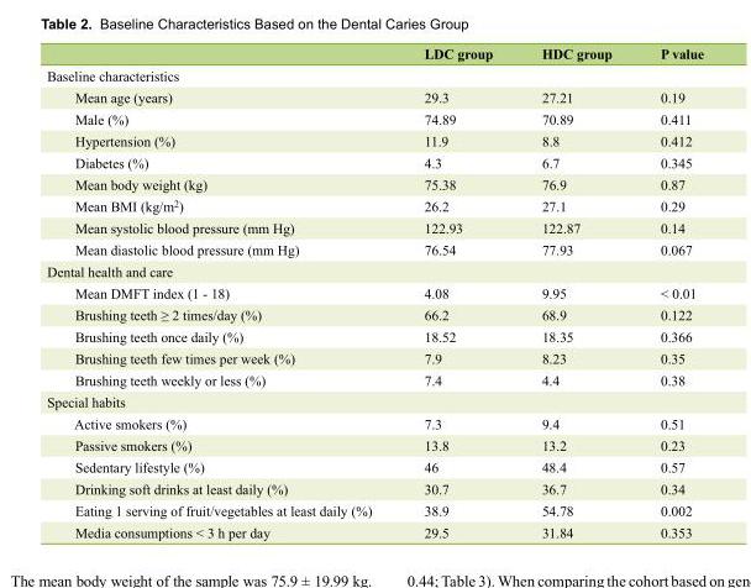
<table><thead><tr><td></td><td>LDC group</td><td>HDC group</td><td>P value</td></tr></thead><tbody><tr><td colspan="4">Baseline characteristics</td></tr><tr><td>Mean age (years)</td><td>29.3</td><td>27.21</td><td>0.19</td></tr><tr><td>Male (%)</td><td>74.89</td><td>70.89</td><td>0.411</td></tr><tr><td>Hypertension (%)</td><td>11.9</td><td>8.8</td><td>0.412</td></tr><tr><td>Diabetes (%)</td><td>4.3</td><td>6.7</td><td>0.345</td></tr><tr><td>Mean body weight (kg)</td><td>75.38</td><td>76.9</td><td>0.87</td></tr><tr><td>Mean BMI (kg/m<sup>2</sup>)</td><td>26.2</td><td>27.1</td><td>0.29</td></tr><tr><td>Mean systolic blood pressure (mm Hg)</td><td>122.93</td><td>122.87</td><td>0.14</td></tr><tr><td>Mean diastolic blood pressure (mm Hg)</td><td>76.54</td><td>77.93</td><td>0.067</td></tr><tr><td colspan="4">Dental health and care</td></tr><tr><td>Mean DMFT index (1 - 18)</td><td>4.08</td><td>9.95</td><td>&lt; 0.01</td></tr><tr><td>Brushing teeth ≥ 2 times/day (%)</td><td>66.2</td><td>68.9</td><td>0.122</td></tr><tr><td>Brushing teeth once daily (%)</td><td>18.52</td><td>18.35</td><td>0.366</td></tr><tr><td>Brushing teeth few times per week (%)</td><td>7.9</td><td>8.23</td><td>0.35</td></tr><tr><td>Brushing teeth weekly or less (%)</td><td>7.4</td><td>4.4</td><td>0.38</td></tr><tr><td colspan="4">Special habits</td></tr><tr><td>Active smokers (%)</td><td>7.3</td><td>9.4</td><td>0.51</td></tr><tr><td>Passive smokers (%)</td><td>13.8</td><td>13.2</td><td>0.23</td></tr><tr><td>Sedentary lifestyle (%)</td><td>46</td><td>48.4</td><td>0.57</td></tr><tr><td>Drinking soft drinks at least daily (%)</td><td>30.7</td><td>36.7</td><td>0.34</td></tr><tr><td>Eating 1 serving of fruit/vegetables at least daily (%)</td><td>38.9</td><td>54.78</td><td>0.002</td></tr><tr><td>Media consumptions &lt; 3 h per day</td><td>29.5</td><td>31.84</td><td>0.353</td></tr></tbody></table>